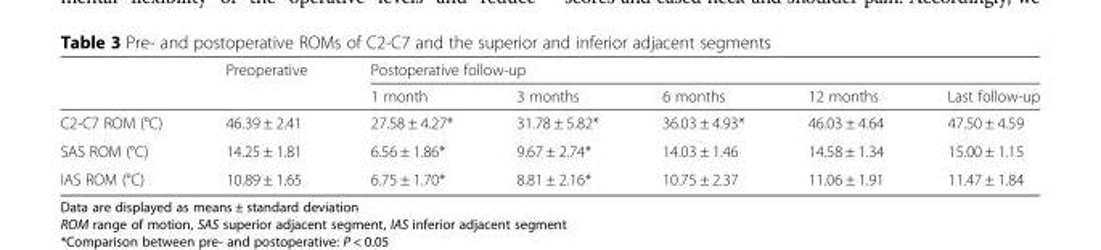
<table><thead><tr><td rowspan="2"></td><td rowspan="2">Preoperative</td><td colspan="5">Postoperative follow-up</td></tr><tr><td>1 month</td><td>3 months</td><td>6 months</td><td>12 months</td><td>Last follow-up</td></tr></thead><tbody><tr><td>C2-C7 ROM (°C)</td><td>46.39 ± 2.41</td><td>27.58 ± 4.27*</td><td>31.78 ± 5.82*</td><td>36.03 ± 4.93*</td><td>46.03 ± 4.64</td><td>47.50 ± 4.59</td></tr><tr><td>SAS ROM (°C)</td><td>14.25 ± 1.81</td><td>6.56 ± 1.86*</td><td>9.67 ± 2.74*</td><td>14.03 ± 1.46</td><td>14.58 ± 1.34</td><td>15.00 ± 1.15</td></tr><tr><td>IAS ROM (°C)</td><td>10.89 ± 1.65</td><td>6.75 ± 1.70*</td><td>8.81 ± 2.16*</td><td>10.75 ± 2.37</td><td>11.06 ± 1.91</td><td>11.47 ± 1.84</td></tr></tbody></table>